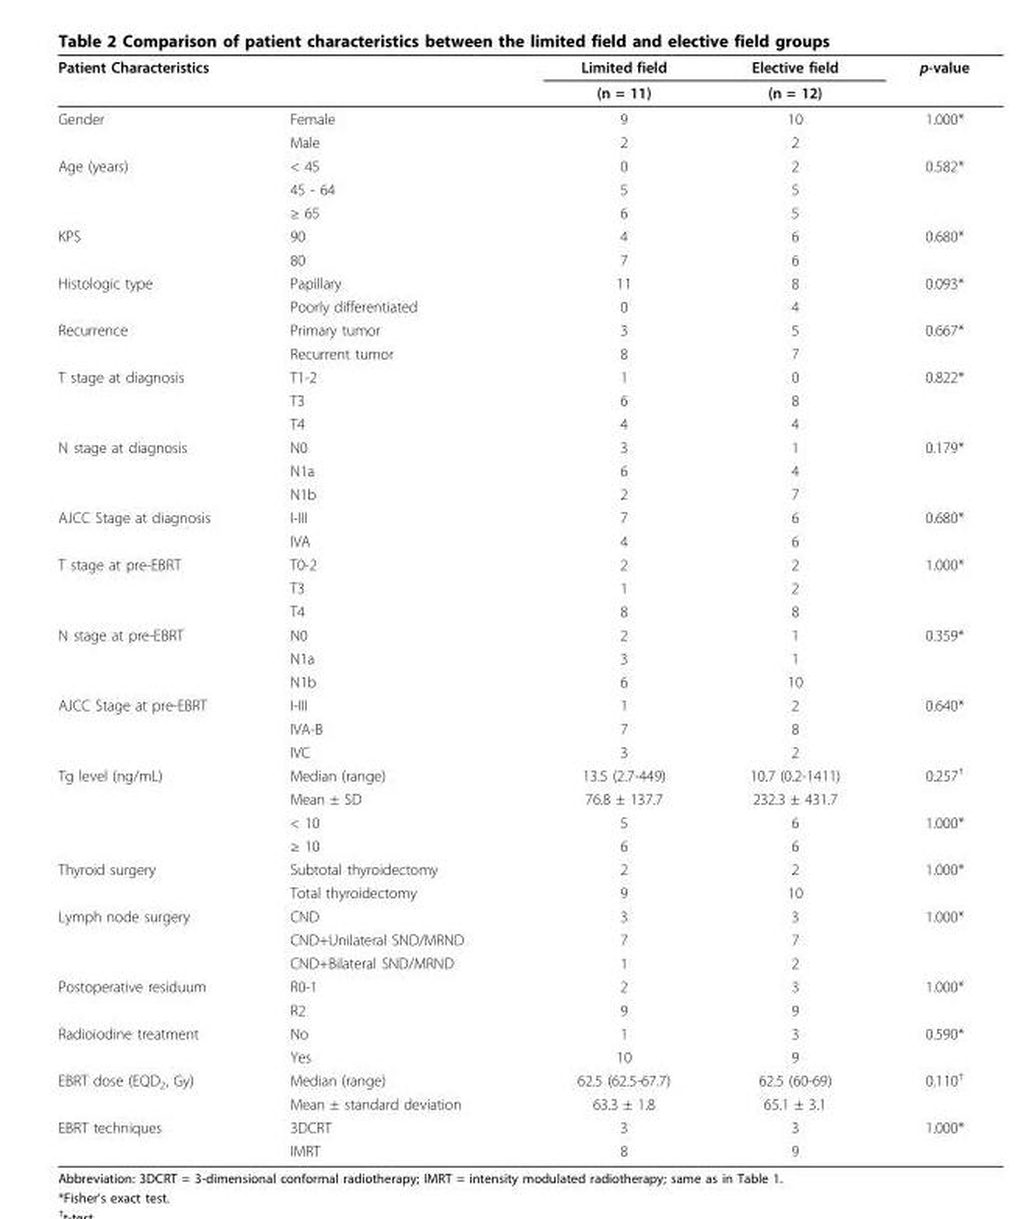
<table><thead><tr><td rowspan="2">Patient Characteristics</td><td rowspan="2"></td><td rowspan="2">Limited field (n = 11)</td><td rowspan="2">Elective field (n = 12)</td><td rowspan="2">p-value</td></tr><tr></tr></thead><tbody><tr><td rowspan="2">Gender</td><td>Female</td><td>9</td><td>10</td><td>1.000*</td></tr><tr><td>Male</td><td>2</td><td>2</td><td></td></tr><tr><td rowspan="3">Age (years)</td><td>&lt; 45</td><td>0</td><td>2</td><td>0.582*</td></tr><tr><td>45 - 64</td><td>5</td><td>5</td><td></td></tr><tr><td>≥ 65</td><td>6</td><td>5</td><td></td></tr><tr><td rowspan="2">KPS</td><td>90</td><td>4</td><td>6</td><td>0.680*</td></tr><tr><td>80</td><td>7</td><td>6</td><td></td></tr><tr><td rowspan="2">Histologic type</td><td>Papillary</td><td>11</td><td>8</td><td>0.093*</td></tr><tr><td>Poorly differentiated</td><td>0</td><td>4</td><td></td></tr><tr><td rowspan="2">Recurrence</td><td>Primary tumor</td><td>3</td><td>5</td><td>0.667*</td></tr><tr><td>Recurrent tumor</td><td>8</td><td>7</td><td></td></tr><tr><td rowspan="3">T stage at diagnosis</td><td>T1-2</td><td>1</td><td>0</td><td>0.822*</td></tr><tr><td>T3</td><td>6</td><td>8</td><td></td></tr><tr><td>T4</td><td>4</td><td>4</td><td></td></tr><tr><td rowspan="3">N stage at diagnosis</td><td>N0</td><td>3</td><td>1</td><td>0.179*</td></tr><tr><td>N1a</td><td>6</td><td>4</td><td></td></tr><tr><td>N1b</td><td>2</td><td>7</td><td></td></tr><tr><td rowspan="2">AJCC Stage at diagnosis</td><td>I-III</td><td>7</td><td>6</td><td>0.680*</td></tr><tr><td>IVA</td><td>4</td><td>6</td><td></td></tr><tr><td rowspan="3">T stage at pre-EBRT</td><td>T0-2</td><td>2</td><td>2</td><td>1.000*</td></tr><tr><td>T3</td><td>1</td><td>2</td><td></td></tr><tr><td>T4</td><td>8</td><td>8</td><td></td></tr><tr><td rowspan="3">N stage at pre-EBRT</td><td>N0</td><td>2</td><td>1</td><td>0.359*</td></tr><tr><td>N1a</td><td>3</td><td>1</td><td></td></tr><tr><td>N1b</td><td>6</td><td>10</td><td></td></tr><tr><td rowspan="3">AJCC Stage at pre-EBRT</td><td>I-III</td><td>1</td><td>2</td><td>0.640*</td></tr><tr><td>IVA-B</td><td>7</td><td>8</td><td></td></tr><tr><td>IVC</td><td>3</td><td>2</td><td></td></tr><tr><td rowspan="4">Tg level (ng/mL)</td><td>Median (range)</td><td>13.5 (2.7-449)</td><td>10.7 (0.2-1411)</td><td>0.257<sup>†</sup></td></tr><tr><td>Mean ± SD</td><td>76.8 ± 137.7</td><td>232.3 ± 431.7</td><td></td></tr><tr><td>&lt; 10</td><td>5</td><td>6</td><td>1.000*</td></tr><tr><td>≥ 10</td><td>6</td><td>6</td><td></td></tr><tr><td rowspan="2">Thyroid surgery</td><td>Subtotal thyroidectomy</td><td>2</td><td>2</td><td>1.000*</td></tr><tr><td>Total thyroidectomy</td><td>9</td><td>10</td><td></td></tr><tr><td rowspan="3">Lymph node surgery</td><td>CND</td><td>3</td><td>3</td><td>1.000*</td></tr><tr><td>CND+Unilateral SND/MRND</td><td>7</td><td>7</td><td></td></tr><tr><td>CND+Bilateral SND/MRND</td><td>1</td><td>2</td><td></td></tr><tr><td rowspan="2">Postoperative residuum</td><td>R0-1</td><td>2</td><td>3</td><td>1.000*</td></tr><tr><td>R2</td><td>9</td><td>9</td><td></td></tr><tr><td rowspan="2">Radioiodine treatment</td><td>No</td><td>1</td><td>3</td><td>0.590*</td></tr><tr><td>Yes</td><td>10</td><td>9</td><td></td></tr><tr><td rowspan="2">EBRT dose (EQD<sub>2</sub>, Gy)</td><td>Median (range)</td><td>62.5 (62.5-67.7)</td><td>62.5 (60-69)</td><td>0.110<sup>†</sup></td></tr><tr><td>Mean ± standard deviation</td><td>63.3 ± 1.8</td><td>65.1 ± 3.1</td><td></td></tr><tr><td rowspan="2">EBRT techniques</td><td>3DCRT</td><td>3</td><td>3</td><td>1.000*</td></tr><tr><td>IMRT</td><td>8</td><td>9</td><td></td></tr></tbody></table>